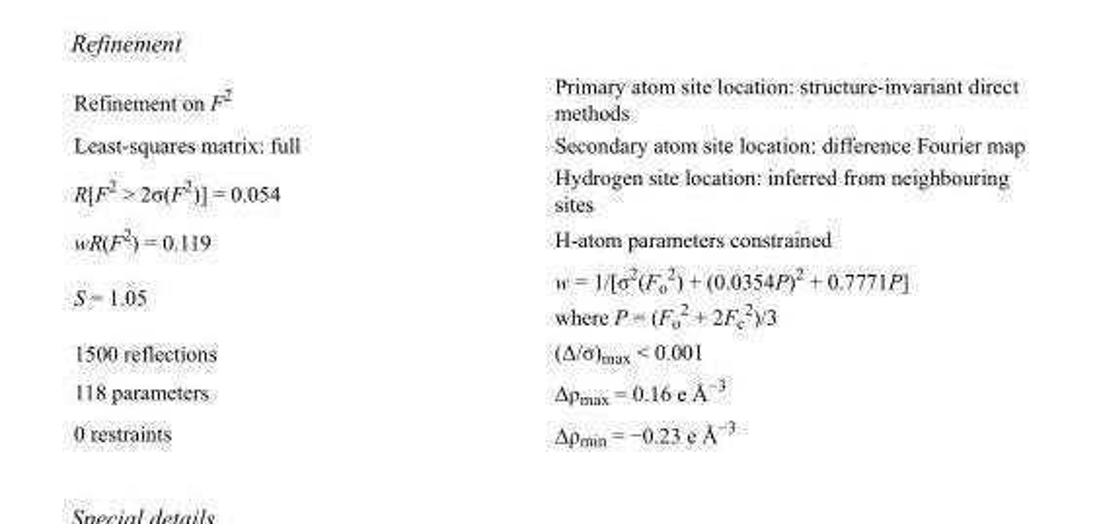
<table><tbody><tr><td>Refinement on F<sup>2</sup></td><td>Primary atom site location: structure-invariant direct methods</td></tr><tr><td>Least-squares matrix: full</td><td>Secondary atom site location: difference Fourier map</td></tr><tr><td>R[F<sup>2</sup> &gt; 2σ(F<sup>2</sup>)] = 0.054</td><td>Hydrogen site location: inferred from neighbouring sites</td></tr><tr><td>wR(F<sup>2</sup>) = 0.119</td><td>H-atom parameters constrained</td></tr><tr><td>S = 1.05</td><td>w = 1/[σ<sup>2</sup>(F<sub>o</sub> <sup>2</sup>) + (0.0354P)<sup>2</sup> + 0.7771P] where P = (F<sub>o</sub> <sup>2</sup> + 2F<sub>c</sub> <sup>2</sup>)/3</td></tr><tr><td>1500 reflections</td><td>(Δ/σ)<sub>max</sub> &lt; 0.001</td></tr><tr><td>118 parameters</td><td>Δρ<sub>max</sub> = 0.16 e Å<sup>−3</sup></td></tr><tr><td>0 restraints</td><td>Δρ<sub>min</sub> = −0.23 e Å<sup>−3</sup></td></tr></tbody></table>